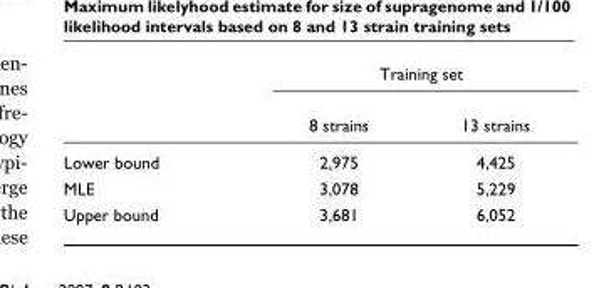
<table><thead><tr><td rowspan="2"></td><td colspan="2">Training set</td></tr><tr><td>8 strains</td><td>13 strains</td></tr></thead><tbody><tr><td>Lower bound</td><td>2,975</td><td>4,425</td></tr><tr><td>MLE</td><td>3,078</td><td>5,229</td></tr><tr><td>Upper bound</td><td>3,681</td><td>6,052</td></tr></tbody></table>